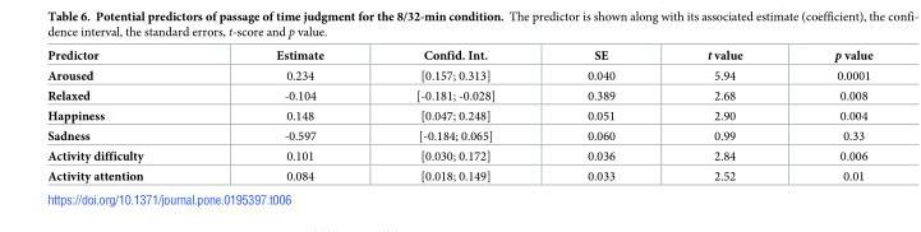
<table><thead><tr><td>Predictor</td><td>Estimate</td><td>Confid. Int.</td><td>SE</td><td>t value</td><td>p value</td></tr></thead><tbody><tr><td>Aroused</td><td>0.234</td><td>[0.157; 0.313]</td><td>0.040</td><td>5.94</td><td>0.0001</td></tr><tr><td>Relaxed</td><td>-0.104</td><td>[-0.181; -0.028]</td><td>0.389</td><td>2.68</td><td>0.008</td></tr><tr><td>Happiness</td><td>0.148</td><td>[0.047; 0.248]</td><td>0.051</td><td>2.90</td><td>0.004</td></tr><tr><td>Sadness</td><td>-0.597</td><td>[-0.184; 0.065]</td><td>0.060</td><td>0.99</td><td>0.33</td></tr><tr><td>Activity difficulty</td><td>0.101</td><td>[0.030; 0.172]</td><td>0.036</td><td>2.84</td><td>0.006</td></tr><tr><td>Activity attention</td><td>0.084</td><td>[0.018; 0.149]</td><td>0.033</td><td>2.52</td><td>0.01</td></tr></tbody></table>